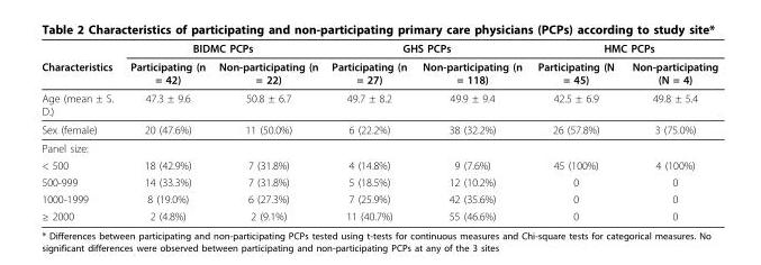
<table><thead><tr><td rowspan="2">Characteristics</td><td colspan="2">BIDMC PCPs</td><td colspan="2">GHS PCPs</td><td colspan="2">HMC PCPs</td></tr><tr><td>Participating (n = 42)</td><td>Non-participating (n = 22)</td><td>Participating (n = 27)</td><td>Non-participating (n = 118)</td><td>Participating (N = 45)</td><td>Non-participating (N = 4)</td></tr></thead><tbody><tr><td>Age (mean ± S. D.)</td><td>47.3 ± 9.6</td><td>50.8 ± 6.7</td><td>49.7 ± 8.2</td><td>49.9 ± 9.4</td><td>42.5 ± 6.9</td><td>49.8 ± 5.4</td></tr><tr><td>Sex (female)</td><td>20 (47.6%)</td><td>11 (50.0%)</td><td>6 (22.2%)</td><td>38 (32.2%)</td><td>26 (57.8%)</td><td>3 (75.0%)</td></tr><tr><td colspan="7">Panel size:</td></tr><tr><td>&lt; 500</td><td>18 (42.9%)</td><td>7 (31.8%)</td><td>4 (14.8%)</td><td>9 (7.6%)</td><td>45 (100%)</td><td>4 (100%)</td></tr><tr><td>500-999</td><td>14 (33.3%)</td><td>7 (31.8%)</td><td>5 (18.5%)</td><td>12 (10.2%)</td><td>0</td><td>0</td></tr><tr><td>1000-1999</td><td>8 (19.0%)</td><td>6 (27.3%)</td><td>7 (25.9%)</td><td>42 (35.6%)</td><td>0</td><td>0</td></tr><tr><td>≥ 2000</td><td>2 (4.8%)</td><td>2 (9.1%)</td><td>11 (40.7%)</td><td>55 (46.6%)</td><td>0</td><td>0</td></tr></tbody></table>